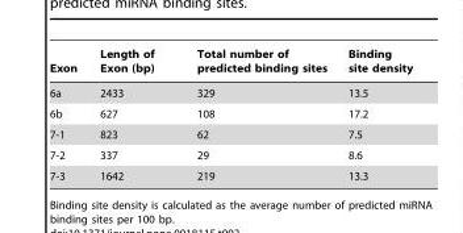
<table><thead><tr><td>Exon</td><td>Length of Exon (bp)</td><td>Total number of predicted binding sites</td><td>Binding site density</td></tr></thead><tbody><tr><td>6a</td><td>2433</td><td>329</td><td>13.5</td></tr><tr><td>6b</td><td>627</td><td>108</td><td>17.2</td></tr><tr><td>7-1</td><td>823</td><td>62</td><td>7.5</td></tr><tr><td>7-2</td><td>337</td><td>29</td><td>8.6</td></tr><tr><td>7-3</td><td>1642</td><td>219</td><td>13.3</td></tr></tbody></table>